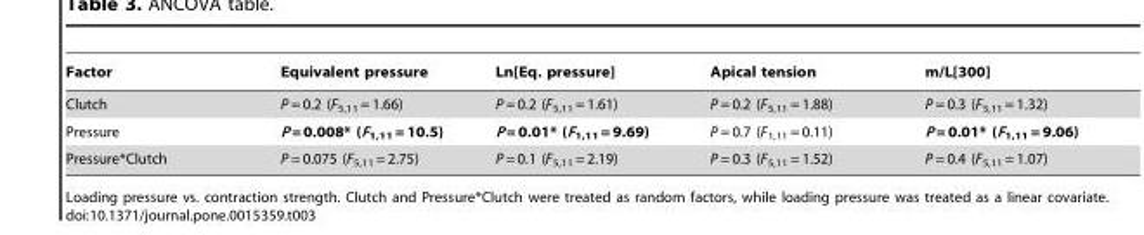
<table><thead><tr><td>Factor</td><td>Equivalent pressure</td><td>Ln[Eq. pressure]</td><td>Apical tension</td><td>m/L[300]</td></tr></thead><tbody><tr><td>Clutch</td><td>P = 0.2 (F<sub>5,11</sub> = 1.66)</td><td>P = 0.2 (F<sub>5,11</sub> = 1.61)</td><td>P = 0.2 (F<sub>5,11</sub> = 1.88)</td><td>P = 0.3 (F<sub>5,11</sub> = 1.32)</td></tr><tr><td>Pressure</td><td>P = 0.008* (F<sub>1,11</sub> = 10.5)</td><td>P = 0.01* (F<sub>1,11</sub> = 9.69)</td><td>P = 0.7 (F<sub>1,11</sub> = 0.11)</td><td>P = 0.01* (F<sub>1,11</sub> = 9.06)</td></tr><tr><td>Pressure*Clutch</td><td>P = 0.075 (F<sub>5,11</sub> = 2.75)</td><td>P = 0.1 (F<sub>5,11</sub> = 2.19)</td><td>P = 0.3 (F<sub>5,11</sub> = 1.52)</td><td>P = 0.4 (F<sub>5,11</sub> = 1.07)</td></tr></tbody></table>